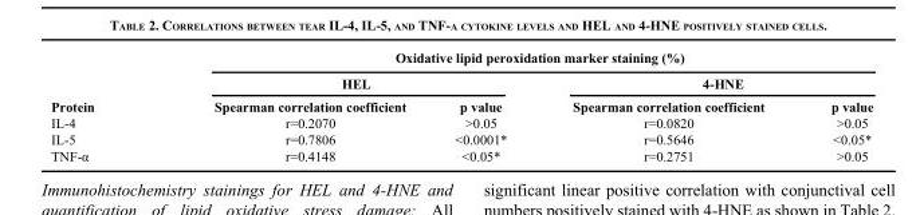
<table><thead><tr><td rowspan="3">Protein</td><td colspan="4">Oxidative lipid peroxidation marker staining (%)</td></tr><tr><td colspan="2">HEL</td><td colspan="2">4-HNE</td></tr><tr><td>Spearman correlation coefficient</td><td>p value</td><td>Spearman correlation coefficient</td><td>p value</td></tr></thead><tbody><tr><td>IL-4</td><td>r=0.2070</td><td>&gt;0.05</td><td>r=0.0820</td><td>&gt;0.05</td></tr><tr><td>IL-5</td><td>r=0.7806</td><td>&lt;0.0001*</td><td>r=0.5646</td><td>&lt;0.05*</td></tr><tr><td>TNF-α</td><td>r=0.4148</td><td>&lt;0.05*</td><td>r=0.2751</td><td>&gt;0.05</td></tr></tbody></table>